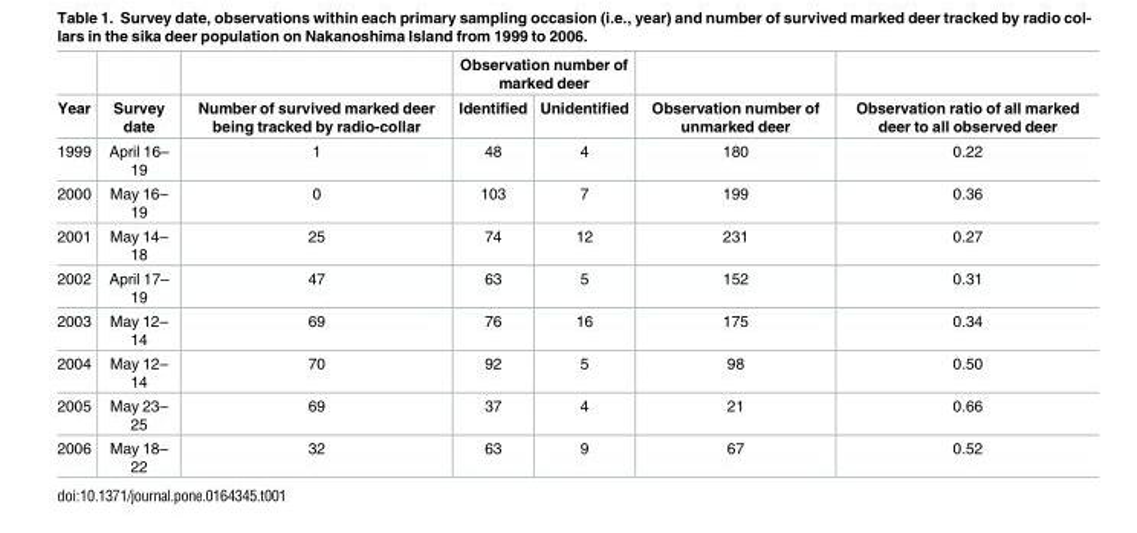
<table><thead><tr><td rowspan="2">Year</td><td rowspan="2">Survey date</td><td rowspan="2">Number of survived marked deer being tracked by radio-collar</td><td colspan="2">Observation number of marked deer</td><td rowspan="2">Observation number of unmarked deer</td><td rowspan="2">Observation ratio of all marked deer to all observed deer</td></tr><tr><td>Identified</td><td>Unidentified</td></tr></thead><tbody><tr><td>1999</td><td>April 16– 19</td><td>1</td><td>48</td><td>4</td><td>180</td><td>0.22</td></tr><tr><td>2000</td><td>May 16– 19</td><td>0</td><td>103</td><td>7</td><td>199</td><td>0.36</td></tr><tr><td>2001</td><td>May 14– 18</td><td>25</td><td>74</td><td>12</td><td>231</td><td>0.27</td></tr><tr><td>2002</td><td>April 17– 19</td><td>47</td><td>63</td><td>5</td><td>152</td><td>0.31</td></tr><tr><td>2003</td><td>May 12– 14</td><td>69</td><td>76</td><td>16</td><td>175</td><td>0.34</td></tr><tr><td>2004</td><td>May 12– 14</td><td>70</td><td>92</td><td>5</td><td>98</td><td>0.50</td></tr><tr><td>2005</td><td>May 23– 25</td><td>69</td><td>37</td><td>4</td><td>21</td><td>0.66</td></tr><tr><td>2006</td><td>May 18– 22</td><td>32</td><td>63</td><td>9</td><td>67</td><td>0.52</td></tr></tbody></table>